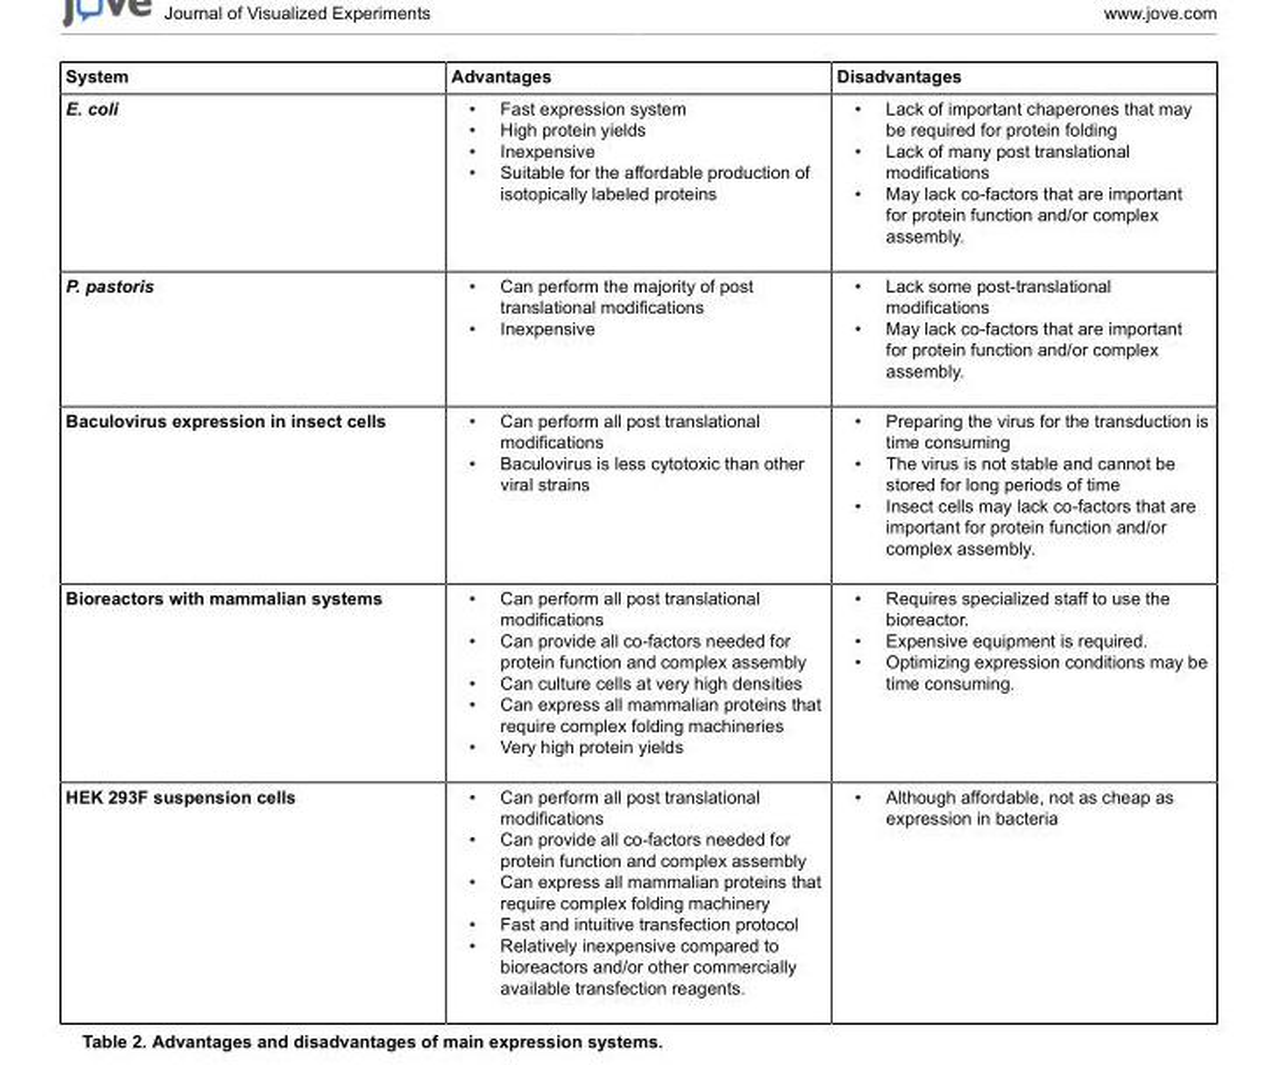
<table><tbody><tr><td>System</td><td>Advantages</td><td>Disadvantages</td></tr><tr><td>E. coli</td><td>• Fast expression system • High protein yields • Inexpensive • Suitable for the affordable production of isotopically labeled proteins</td><td>• Lack of important chaperones that may be required for protein folding • Lack of many post translational modifications • May lack co-factors that are important for protein function and/or complex assembly.</td></tr><tr><td>P. pastoris</td><td>• Can perform the majority of post translational modifications • Inexpensive</td><td>• Lack some post-translational modifications • May lack co-factors that are important for protein function and/or complex assembly.</td></tr><tr><td>Baculovirus expression in insect cells</td><td>• Can perform all post translational modifications • Baculovirus is less cytotoxic than other viral strains</td><td>• Preparing the virus for the transduction is time consuming • The virus is not stable and cannot be stored for long periods of time • Insect cells may lack co-factors that are important for protein function and/or complex assembly.</td></tr><tr><td>Bioreactors with mammalian systems</td><td>• Can perform all post translational modifications • Can provide all co-factors needed for protein function and complex assembly • Can culture cells at very high densities • Can express all mammalian proteins that require complex folding machineries • Very high protein yields</td><td>• Requires specialized staff to use the bioreactor. • Expensive equipment is required. • Optimizing expression conditions may be time consuming.</td></tr><tr><td>HEK 293F suspension cells</td><td>• Can perform all post translational modifications • Can provide all co-factors needed for protein function and complex assembly • Can express all mammalian proteins that require complex folding machinery • Fast and intuitive transfection protocol • Relatively inexpensive compared to bioreactors and/or other commercially available transfection reagents.</td><td>• Although affordable, not as cheap as expression in bacteria</td></tr></tbody></table>